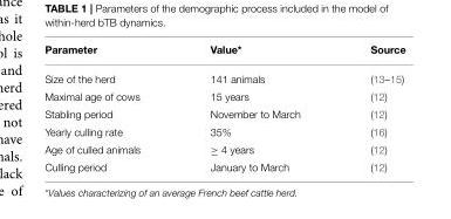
<table><thead><tr><td>Parameter</td><td>Value*</td><td>Source</td></tr></thead><tbody><tr><td>Size of the herd</td><td>141 animals</td><td>(13–15)</td></tr><tr><td>Maximal age of cows</td><td>15 years</td><td>(12)</td></tr><tr><td>Stabling period</td><td>November to March</td><td>(12)</td></tr><tr><td>Yearly culling rate</td><td>35%</td><td>(16)</td></tr><tr><td>Age of culled animals</td><td>≥ 4 years</td><td>(12)</td></tr><tr><td>Culling period</td><td>January to March</td><td>(12)</td></tr></tbody></table>